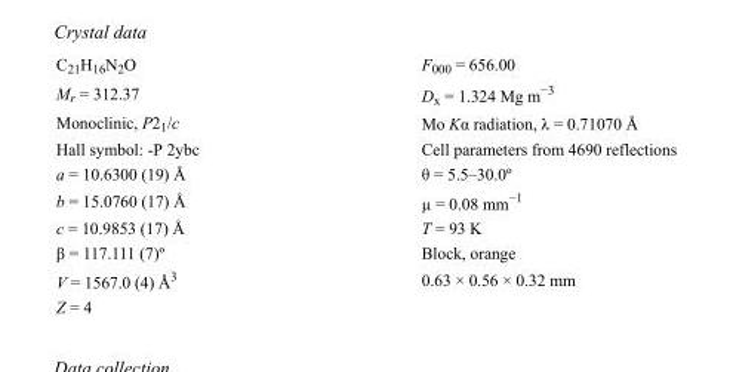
<table><tbody><tr><td>C<sub>21</sub>H<sub>16</sub>N<sub>2</sub>O</td><td>F000 = 656.00</td></tr><tr><td>M<sub>r</sub> = 312.37</td><td>D<sub>x</sub> = 1.324 Mg m<sup>−3</sup></td></tr><tr><td>Monoclinic, P2<sub>1</sub>/c</td><td>Mo Kα radiation, λ = 0.71070 Å</td></tr><tr><td>Hall symbol: -P 2ybc</td><td>Cell parameters from 4690 reflections</td></tr><tr><td>a = 10.6300 (19) Å</td><td>θ = 5.5–30.0º</td></tr><tr><td>b = 15.0760 (17) Å</td><td>µ = 0.08 mm<sup>−1</sup></td></tr><tr><td>c = 10.9853 (17) Å</td><td>T = 93 K</td></tr><tr><td>β = 117.111 (7)º</td><td>Block, orange</td></tr><tr><td>V = 1567.0 (4) Å<sup>3</sup></td><td>0.63 × 0.56 × 0.32 mm</td></tr><tr><td>Z = 4</td><td></td></tr></tbody></table>